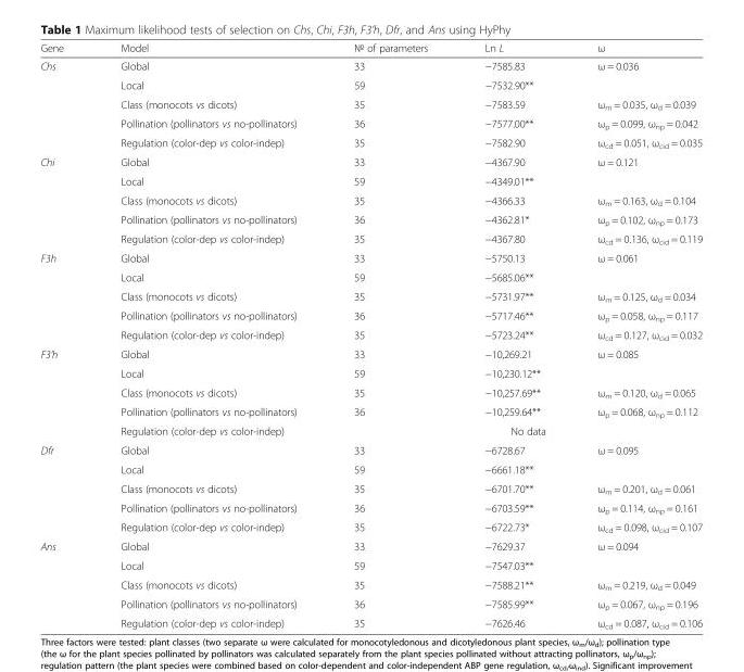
<table><thead><tr><td>Gene</td><td>Model</td><td>№ of parameters</td><td>Ln L</td><td>ω</td></tr></thead><tbody><tr><td rowspan="5">Chs</td><td>Global</td><td>33</td><td>−7585.83</td><td>ω = 0.036</td></tr><tr><td>Local</td><td>59</td><td>−7532.90**</td><td></td></tr><tr><td>Class (monocots vs dicots)</td><td>35</td><td>−7583.59</td><td>ω<sub>m</sub> = 0.035, ω<sub>d</sub> = 0.039</td></tr><tr><td>Pollination (pollinators vs no-pollinators)</td><td>36</td><td>−7577.00**</td><td>ω<sub>p</sub> = 0.099, ω<sub>np</sub> = 0.042</td></tr><tr><td>Regulation (color-dep vs color-indep)</td><td>35</td><td>−7582.90</td><td>ω<sub>cd</sub> = 0.051, ω<sub>cid</sub> = 0.035</td></tr><tr><td rowspan="5">Chi</td><td>Global</td><td>33</td><td>−4367.90</td><td>ω = 0.121</td></tr><tr><td>Local</td><td>59</td><td>−4349.01**</td><td></td></tr><tr><td>Class (monocots vs dicots)</td><td>35</td><td>−4366.33</td><td>ω<sub>m</sub> = 0.163, ω<sub>d</sub> = 0.104</td></tr><tr><td>Pollination (pollinators vs no-pollinators)</td><td>36</td><td>−4362.81*</td><td>ω<sub>p</sub> = 0.102, ω<sub>np</sub> = 0.173</td></tr><tr><td>Regulation (color-dep vs color-indep)</td><td>35</td><td>−4367.80</td><td>ω<sub>cd</sub> = 0.136, ω<sub>cid</sub> = 0.119</td></tr><tr><td rowspan="5">F3h</td><td>Global</td><td>33</td><td>−5750.13</td><td>ω = 0.061</td></tr><tr><td>Local</td><td>59</td><td>−5685.06**</td><td></td></tr><tr><td>Class (monocots vs dicots)</td><td>35</td><td>−5731.97**</td><td>ω<sub>m</sub> = 0.125, ω<sub>d</sub> = 0.034</td></tr><tr><td>Pollination (pollinators vs no-pollinators)</td><td>36</td><td>−5717.46**</td><td>ω<sub>p</sub> = 0.058, ω<sub>np</sub> = 0.117</td></tr><tr><td>Regulation (color-dep vs color-indep)</td><td>35</td><td>−5723.24**</td><td>ω<sub>cd</sub> = 0.127, ω<sub>cid</sub> = 0.032</td></tr><tr><td rowspan="5">F3’h</td><td>Global</td><td>33</td><td>−10,269.21</td><td>ω = 0.085</td></tr><tr><td>Local</td><td>59</td><td>−10,230.12**</td><td></td></tr><tr><td>Class (monocots vs dicots)</td><td>35</td><td>−10,257.69**</td><td>ω<sub>m</sub> = 0.120, ω<sub>d</sub> = 0.065</td></tr><tr><td>Pollination (pollinators vs no-pollinators)</td><td>36</td><td>−10,259.64**</td><td>ω<sub>p</sub> = 0.068, ω<sub>np</sub> = 0.112</td></tr><tr><td>Regulation (color-dep vs color-indep)</td><td colspan="3">No data</td></tr><tr><td rowspan="5">Dfr</td><td>Global</td><td>33</td><td>−6728.67</td><td>ω = 0.095</td></tr><tr><td>Local</td><td>59</td><td>−6661.18**</td><td></td></tr><tr><td>Class (monocots vs dicots)</td><td>35</td><td>−6701.70**</td><td>ω<sub>m</sub> = 0.201, ω<sub>d</sub> = 0.061</td></tr><tr><td>Pollination (pollinators vs no-pollinators)</td><td>36</td><td>−6703.59**</td><td>ω<sub>p</sub> = 0.114, ω<sub>np</sub> = 0.161</td></tr><tr><td>Regulation (color-dep vs color-indep)</td><td>35</td><td>−6722.73*</td><td>ω<sub>cd</sub> = 0.098, ω<sub>cid</sub> = 0.107</td></tr><tr><td rowspan="5">Ans</td><td>Global</td><td>33</td><td>−7629.37</td><td>ω = 0.094</td></tr><tr><td>Local</td><td>59</td><td>−7547.03**</td><td></td></tr><tr><td>Class (monocots vs dicots)</td><td>35</td><td>−7588.21**</td><td>ω<sub>m</sub> = 0.219, ω<sub>d</sub> = 0.049</td></tr><tr><td>Pollination (pollinators vs no-pollinators)</td><td>36</td><td>−7585.99**</td><td>ω<sub>p</sub> = 0.067, ω<sub>np</sub> = 0.196</td></tr><tr><td>Regulation (color-dep vs color-indep)</td><td>35</td><td>−7626.46</td><td>ω<sub>cd</sub> = 0.087, ω<sub>cid</sub> = 0.106</td></tr></tbody></table>